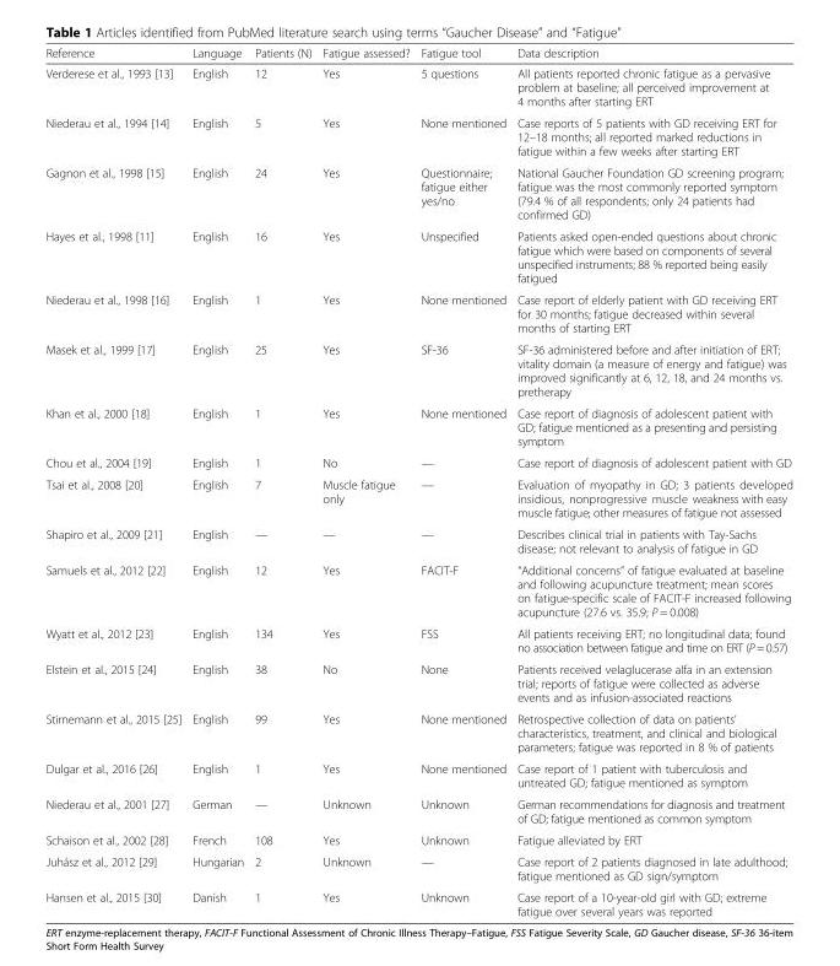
<table><thead><tr><td>Reference</td><td>Language</td><td>Patients (N)</td><td>Fatigue assessed?</td><td>Fatigue tool</td><td>Data description</td></tr></thead><tbody><tr><td>Verderese et al., 1993 [13]</td><td>English</td><td>12</td><td>Yes</td><td>5 questions</td><td>All patients reported chronic fatigue as a pervasive problem at baseline; all perceived improvement at 4 months after starting ERT</td></tr><tr><td>Niederau et al., 1994 [14]</td><td>English</td><td>5</td><td>Yes</td><td>None mentioned</td><td>Case reports of 5 patients with GD receiving ERT for 12–18 months; all reported marked reductions in fatigue within a few weeks after starting ERT</td></tr><tr><td>Gagnon et al., 1998 [15]</td><td>English</td><td>24</td><td>Yes</td><td>Questionnaire; fatigue either yes/no</td><td>National Gaucher Foundation GD screening program; fatigue was the most commonly reported symptom (79.4 % of all respondents; only 24 patients had confirmed GD)</td></tr><tr><td>Hayes et al., 1998 [11]</td><td>English</td><td>16</td><td>Yes</td><td>Unspecified</td><td>Patients asked open-ended questions about chronic fatigue which were based on components of several unspecified instruments; 88 % reported being easily fatigued</td></tr><tr><td>Niederau et al., 1998 [16]</td><td>English</td><td>1</td><td>Yes</td><td>None mentioned</td><td>Case report of elderly patient with GD receiving ERT for 30 months; fatigue decreased within several months of starting ERT</td></tr><tr><td>Masek et al., 1999 [17]</td><td>English</td><td>25</td><td>Yes</td><td>SF-36</td><td>SF-36 administered before and after initiation of ERT; vitality domain (a measure of energy and fatigue) was improved significantly at 6, 12, 18, and 24 months vs. pretherapy</td></tr><tr><td>Khan et al., 2000 [18]</td><td>English</td><td>1</td><td>Yes</td><td>None mentioned</td><td>Case report of diagnosis of adolescent patient with GD; fatigue mentioned as a presenting and persisting symptom</td></tr><tr><td>Chou et al., 2004 [19]</td><td>English</td><td>1</td><td>No</td><td>—</td><td>Case report of diagnosis of adolescent patient with GD</td></tr><tr><td>Tsai et al., 2008 [20]</td><td>English</td><td>7</td><td>Muscle fatigue only</td><td>—</td><td>Evaluation of myopathy in GD; 3 patients developed insidious, nonprogressive muscle weakness with easy muscle fatigue; other measures of fatigue not assessed</td></tr><tr><td>Shapiro et al., 2009 [21]</td><td>English</td><td>—</td><td>—</td><td>—</td><td>Describes clinical trial in patients with Tay-Sachs disease; not relevant to analysis of fatigue in GD</td></tr><tr><td>Samuels et al., 2012 [22]</td><td>English</td><td>12</td><td>Yes</td><td>FACIT-F</td><td>“Additional concerns” of fatigue evaluated at baseline and following acupuncture treatment; mean scores on fatigue-specific scale of FACIT-F increased following acupuncture (27.6 vs. 35.9; P = 0.008)</td></tr><tr><td>Wyatt et al., 2012 [23]</td><td>English</td><td>134</td><td>Yes</td><td>FSS</td><td>All patients receiving ERT; no longitudinal data; found no association between fatigue and time on ERT (P = 0.57)</td></tr><tr><td>Elstein et al., 2015 [24]</td><td>English</td><td>38</td><td>No</td><td>None</td><td>Patients received velaglucerase alfa in an extension trial; reports of fatigue were collected as adverse events and as infusion-associated reactions</td></tr><tr><td>Stirnemann et al., 2015 [25]</td><td>English</td><td>99</td><td>Yes</td><td>None mentioned</td><td>Retrospective collection of data on patients’ characteristics, treatment, and clinical and biological parameters; fatigue was reported in 8 % of patients</td></tr><tr><td>Dulgar et al., 2016 [26]</td><td>English</td><td>1</td><td>Yes</td><td>None mentioned</td><td>Case report of 1 patient with tuberculosis and untreated GD; fatigue mentioned as symptom</td></tr><tr><td>Niederau et al., 2001 [27]</td><td>German</td><td>—</td><td>Unknown</td><td>Unknown</td><td>German recommendations for diagnosis and treatment of GD; fatigue mentioned as common symptom</td></tr><tr><td>Schaison et al., 2002 [28]</td><td>French</td><td>108</td><td>Yes</td><td>Unknown</td><td>Fatigue alleviated by ERT</td></tr><tr><td>Juhász et al., 2012 [29]</td><td>Hungarian</td><td>2</td><td>Unknown</td><td>—</td><td>Case report of 2 patients diagnosed in late adulthood; fatigue mentioned as GD sign/symptom</td></tr><tr><td>Hansen et al., 2015 [30]</td><td>Danish</td><td>1</td><td>Yes</td><td>Unknown</td><td>Case report of a 10-year-old girl with GD; extreme fatigue over several years was reported</td></tr></tbody></table>